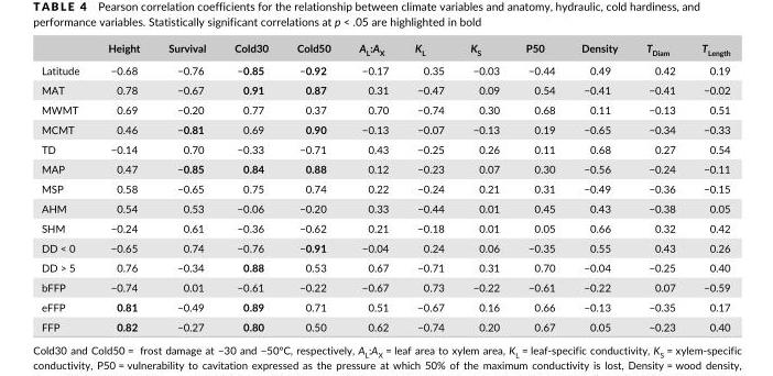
<table><thead><tr><td></td><td>Height</td><td>Survival</td><td>Cold30</td><td>Cold50</td><td>A<sub>L</sub>:A<sub>X</sub></td><td>K<sub>L</sub></td><td>K<sub>S</sub></td><td>P50</td><td>Density</td><td>T<sub>Diam</sub></td><td>T<sub>Length</sub></td></tr></thead><tbody><tr><td>Latitude</td><td>−0.68</td><td>−0.76</td><td>−0.85</td><td>−0.92</td><td>−0.17</td><td>0.35</td><td>−0.03</td><td>−0.44</td><td>0.49</td><td>0.42</td><td>0.19</td></tr><tr><td>MAT</td><td>0.78</td><td>−0.67</td><td>0.91</td><td>0.87</td><td>0.31</td><td>−0.47</td><td>0.09</td><td>0.54</td><td>−0.41</td><td>−0.41</td><td>−0.02</td></tr><tr><td>MWMT</td><td>0.69</td><td>−0.20</td><td>0.77</td><td>0.37</td><td>0.70</td><td>−0.74</td><td>0.30</td><td>0.68</td><td>0.11</td><td>−0.13</td><td>0.51</td></tr><tr><td>MCMT</td><td>0.46</td><td>−0.81</td><td>0.69</td><td>0.90</td><td>−0.13</td><td>−0.07</td><td>−0.13</td><td>0.19</td><td>−0.65</td><td>−0.34</td><td>−0.33</td></tr><tr><td>TD</td><td>−0.14</td><td>0.70</td><td>−0.33</td><td>−0.71</td><td>0.43</td><td>−0.25</td><td>0.26</td><td>0.11</td><td>0.68</td><td>0.27</td><td>0.54</td></tr><tr><td>MAP</td><td>0.47</td><td>−0.85</td><td>0.84</td><td>0.88</td><td>0.12</td><td>−0.23</td><td>0.07</td><td>0.30</td><td>−0.56</td><td>−0.24</td><td>−0.11</td></tr><tr><td>MSP</td><td>0.58</td><td>−0.65</td><td>0.75</td><td>0.74</td><td>0.22</td><td>−0.24</td><td>0.21</td><td>0.31</td><td>−0.49</td><td>−0.36</td><td>−0.15</td></tr><tr><td>AHM</td><td>0.54</td><td>0.53</td><td>−0.06</td><td>−0.20</td><td>0.33</td><td>−0.44</td><td>0.01</td><td>0.45</td><td>0.43</td><td>−0.38</td><td>0.05</td></tr><tr><td>SHM</td><td>−0.24</td><td>0.61</td><td>−0.36</td><td>−0.62</td><td>0.21</td><td>−0.18</td><td>0.01</td><td>0.05</td><td>0.66</td><td>0.32</td><td>0.42</td></tr><tr><td>DD &lt; 0</td><td>−0.65</td><td>0.74</td><td>−0.76</td><td>−0.91</td><td>−0.04</td><td>0.24</td><td>0.06</td><td>−0.35</td><td>0.55</td><td>0.43</td><td>0.26</td></tr><tr><td>DD &gt; 5</td><td>0.76</td><td>−0.34</td><td>0.88</td><td>0.53</td><td>0.67</td><td>−0.71</td><td>0.31</td><td>0.70</td><td>−0.04</td><td>−0.25</td><td>0.40</td></tr><tr><td>bFFP</td><td>−0.74</td><td>0.01</td><td>−0.61</td><td>−0.22</td><td>−0.67</td><td>0.73</td><td>−0.22</td><td>−0.61</td><td>−0.22</td><td>0.07</td><td>−0.59</td></tr><tr><td>eFFP</td><td>0.81</td><td>−0.49</td><td>0.89</td><td>0.71</td><td>0.51</td><td>−0.67</td><td>0.16</td><td>0.66</td><td>−0.13</td><td>−0.35</td><td>0.17</td></tr><tr><td>FFP</td><td>0.82</td><td>−0.27</td><td>0.80</td><td>0.50</td><td>0.62</td><td>−0.74</td><td>0.20</td><td>0.67</td><td>0.05</td><td>−0.23</td><td>0.40</td></tr></tbody></table>